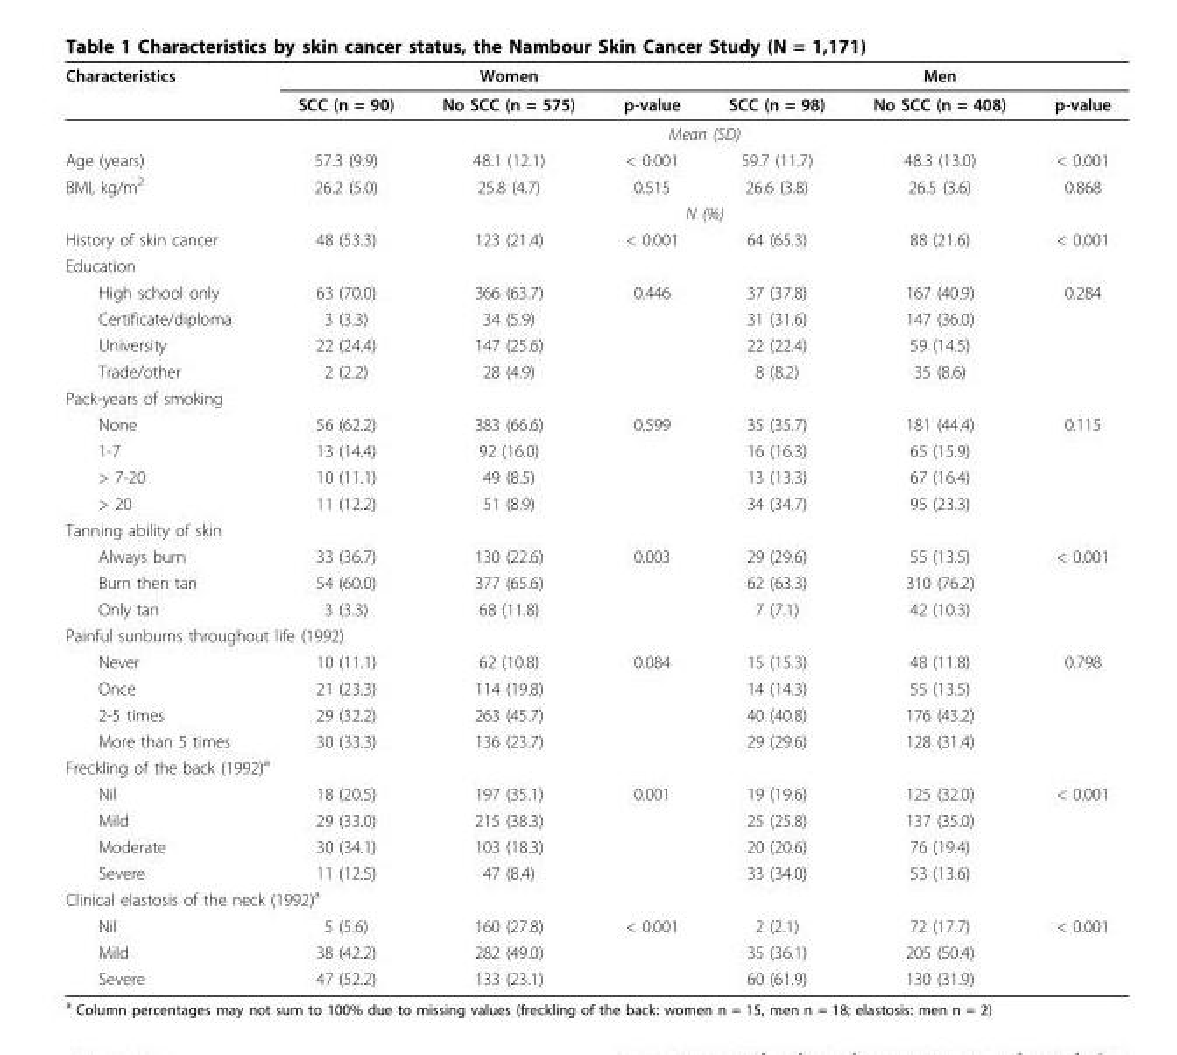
<table><thead><tr><td rowspan="2">Characteristics</td><td rowspan="2">SCC (n = 90)</td><td rowspan="2">Women No SCC (n = 575)</td><td rowspan="2">p-value</td><td rowspan="2">SCC (n = 98)</td><td rowspan="2">Men No SCC (n = 408)</td><td rowspan="2">p-value</td></tr><tr></tr></thead><tbody><tr><td></td><td colspan="6">Mean (SD)</td></tr><tr><td>Age (years)</td><td>57.3 (9.9)</td><td>48.1 (12.1)</td><td>&lt; 0.001</td><td>59.7 (11.7)</td><td>48.3 (13.0)</td><td>&lt; 0.001</td></tr><tr><td rowspan="2">BMI, kg/m<sup>2</sup></td><td>26.2 (5.0)</td><td>25.8 (4.7)</td><td>0.515</td><td>26.6 (3.8)</td><td>26.5 (3.6)</td><td>0.868</td></tr><tr><td colspan="6">N (%)</td></tr><tr><td>History of skin cancer</td><td>48 (53.3)</td><td>123 (21.4)</td><td>&lt; 0.001</td><td>64 (65.3)</td><td>88 (21.6)</td><td>&lt; 0.001</td></tr><tr><td colspan="7">Education</td></tr><tr><td>High school only</td><td>63 (70.0)</td><td>366 (63.7)</td><td>0.446</td><td>37 (37.8)</td><td>167 (40.9)</td><td>0.284</td></tr><tr><td>Certificate/diploma</td><td>3 (3.3)</td><td>34 (5.9)</td><td></td><td>31 (31.6)</td><td>147 (36.0)</td><td></td></tr><tr><td>University</td><td>22 (24.4)</td><td>147 (25.6)</td><td></td><td>22 (22.4)</td><td>59 (14.5)</td><td></td></tr><tr><td>Trade/other</td><td>2 (2.2)</td><td>28 (4.9)</td><td></td><td>8 (8.2)</td><td>35 (8.6)</td><td></td></tr><tr><td colspan="7">Pack-years of smoking</td></tr><tr><td>None</td><td>56 (62.2)</td><td>383 (66.6)</td><td>0.599</td><td>35 (35.7)</td><td>181 (44.4)</td><td>0.115</td></tr><tr><td>1-7</td><td>13 (14.4)</td><td>92 (16.0)</td><td></td><td>16 (16.3)</td><td>65 (15.9)</td><td></td></tr><tr><td>&gt; 7-20</td><td>10 (11.1)</td><td>49 (8.5)</td><td></td><td>13 (13.3)</td><td>67 (16.4)</td><td></td></tr><tr><td>&gt; 20</td><td>11 (12.2)</td><td>51 (8.9)</td><td></td><td>34 (34.7)</td><td>95 (23.3)</td><td></td></tr><tr><td colspan="7">Tanning ability of skin</td></tr><tr><td>Always burn</td><td>33 (36.7)</td><td>130 (22.6)</td><td>0.003</td><td>29 (29.6)</td><td>55 (13.5)</td><td>&lt; 0.001</td></tr><tr><td>Burn then tan</td><td>54 (60.0)</td><td>377 (65.6)</td><td></td><td>62 (63.3)</td><td>310 (76.2)</td><td></td></tr><tr><td>Only tan</td><td>3 (3.3)</td><td>68 (11.8)</td><td></td><td>7 (7.1)</td><td>42 (10.3)</td><td></td></tr><tr><td colspan="7">Painful sunburns throughout life (1992)</td></tr><tr><td>Never</td><td>10 (11.1)</td><td>62 (10.8)</td><td>0.084</td><td>15 (15.3)</td><td>48 (11.8)</td><td>0.798</td></tr><tr><td>Once</td><td>21 (23.3)</td><td>114 (19.8)</td><td></td><td>14 (14.3)</td><td>55 (13.5)</td><td></td></tr><tr><td>2-5 times</td><td>29 (32.2)</td><td>263 (45.7)</td><td></td><td>40 (40.8)</td><td>176 (43.2)</td><td></td></tr><tr><td>More than 5 times</td><td>30 (33.3)</td><td>136 (23.7)</td><td></td><td>29 (29.6)</td><td>128 (31.4)</td><td></td></tr><tr><td colspan="7">Freckling of the back (1992)<sup>a</sup></td></tr><tr><td>Nil</td><td>18 (20.5)</td><td>197 (35.1)</td><td>0.001</td><td>19 (19.6)</td><td>125 (32.0)</td><td>&lt; 0.001</td></tr><tr><td>Mild</td><td>29 (33.0)</td><td>215 (38.3)</td><td></td><td>25 (25.8)</td><td>137 (35.0)</td><td></td></tr><tr><td>Moderate</td><td>30 (34.1)</td><td>103 (18.3)</td><td></td><td>20 (20.6)</td><td>76 (19.4)</td><td></td></tr><tr><td>Severe</td><td>11 (12.5)</td><td>47 (8.4)</td><td></td><td>33 (34.0)</td><td>53 (13.6)</td><td></td></tr><tr><td colspan="7">Clinical elastosis of the neck (1992)<sup>a</sup></td></tr><tr><td>Nil</td><td>5 (5.6)</td><td>160 (27.8)</td><td>&lt; 0.001</td><td>2 (2.1)</td><td>72 (17.7)</td><td>&lt; 0.001</td></tr><tr><td>Mild</td><td>38 (42.2)</td><td>282 (49.0)</td><td></td><td>35 (36.1)</td><td>205 (50.4)</td><td></td></tr><tr><td>Severe</td><td>47 (52.2)</td><td>133 (23.1)</td><td></td><td>60 (61.9)</td><td>130 (31.9)</td><td></td></tr></tbody></table>